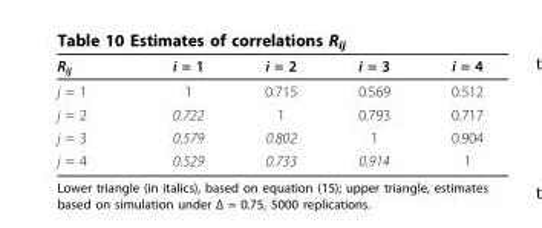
<table><thead><tr><td>R<sub>ij</sub></td><td>i = 1</td><td>i = 2</td><td>i = 3</td><td>i = 4</td></tr></thead><tbody><tr><td>j = 1</td><td>1</td><td>0.715</td><td>0.569</td><td>0.512</td></tr><tr><td>j = 2</td><td>0.722</td><td>1</td><td>0.793</td><td>0.717</td></tr><tr><td>j = 3</td><td>0.579</td><td>0.802</td><td>1</td><td>0.904</td></tr><tr><td>j = 4</td><td>0.529</td><td>0.733</td><td>0.914</td><td>1</td></tr></tbody></table>